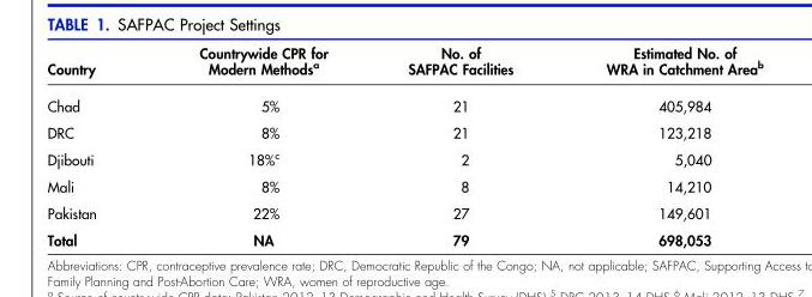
<table><thead><tr><td>Country</td><td>Countrywide CPR for Modern Methods<sup>a</sup></td><td>No. of SAFPAC Facilities</td><td>Estimated No. of WRA in Catchment Area<sup>b</sup></td></tr></thead><tbody><tr><td>Chad</td><td>5%</td><td>21</td><td>405,984</td></tr><tr><td>DRC</td><td>8%</td><td>21</td><td>123,218</td></tr><tr><td>Djibouti</td><td>18%<sup>c</sup></td><td>2</td><td>5,040</td></tr><tr><td>Mali</td><td>8%</td><td>8</td><td>14,210</td></tr><tr><td>Pakistan</td><td>22%</td><td>27</td><td>149,601</td></tr><tr><td>Total</td><td>NA</td><td>79</td><td>698,053</td></tr></tbody></table>